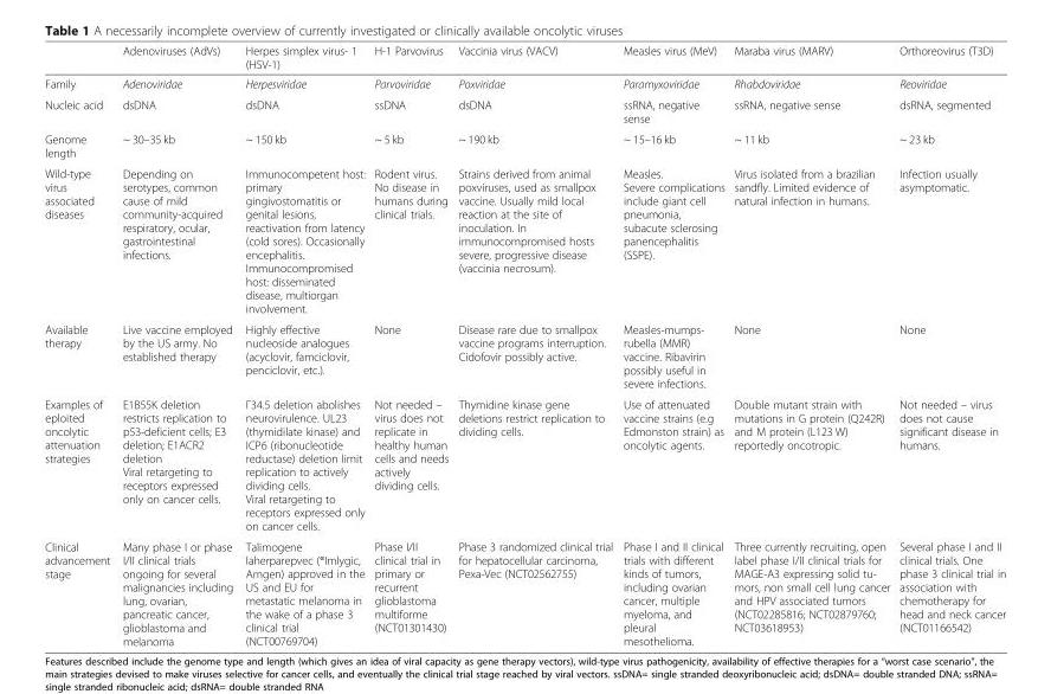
<table><thead><tr><td></td><td>Adenoviruses (AdVs)</td><td>Herpes simplex virus- 1 (HSV-1)</td><td>H-1 Parvovirus</td><td>Vaccinia virus (VACV)</td><td>Measles virus (MeV)</td><td>Maraba virus (MARV)</td><td>Orthoreovirus (T3D)</td></tr></thead><tbody><tr><td>Family</td><td>Adenoviridae</td><td>Herpesviridae</td><td>Parvoviridae</td><td>Poxviridae</td><td>Paramyxoviridae</td><td>Rhabdoviridae</td><td>Reoviridae</td></tr><tr><td>Nucleic acid</td><td>dsDNA</td><td>dsDNA</td><td>ssDNA</td><td>dsDNA</td><td>ssRNA, negative sense</td><td>ssRNA, negative sense</td><td>dsRNA, segmented</td></tr><tr><td>Genome length</td><td>~ 30–35 kb</td><td>~ 150 kb</td><td>~ 5 kb</td><td>~ 190 kb</td><td>~ 15–16 kb</td><td>~ 11 kb</td><td>~ 23 kb</td></tr><tr><td>Wild-type virus associated diseases</td><td>Depending on serotypes, common cause of mild community-acquired respiratory, ocular, gastrointestinal infections.</td><td>Immunocompetent host: primary gingivostomatitis or genital lesions, reactivation from latency (cold sores). Occasionally encephalitis. Immunocompromised host: disseminated disease, multiorgan involvement.</td><td>Rodent virus. No disease in humans during clinical trials.</td><td>Strains derived from animal poxviruses, used as smallpox vaccine. Usually mild local reaction at the site of inoculation. In immunocompromised hosts severe, progressive disease (vaccinia necrosum).</td><td>Measles. Severe complications include giant cell pneumonia, subacute sclerosing panencephalitis (SSPE).</td><td>Virus isolated from a brazilian sandfly. Limited evidence of natural infection in humans.</td><td>Infection usually asymptomatic.</td></tr><tr><td>Available therapy</td><td>Live vaccine employed by the US army. No established therapy</td><td>Highly effective nucleoside analogues (acyclovir, famciclovir, penciclovir, etc.).</td><td>None</td><td>Disease rare due to smallpox vaccine programs interruption. Cidofovir possibly active.</td><td>Measles-mumps- rubella (MMR) vaccine. Ribavirin possibly useful in severe infections.</td><td>None</td><td>None</td></tr><tr><td>Examples of eploited oncolytic attenuation strategies</td><td>E1B55K deletion restricts replication to p53-deficient cells; E3 deletion; E1ACR2 deletion Viral retargeting to receptors expressed only on cancer cells.</td><td>Γ34.5 deletion abolishes neurovirulence. UL23 (thymidilate kinase) and ICP6 (ribonucleotide reductase) deletion limit replication to actively dividing cells. Viral retargeting to receptors expressed only on cancer cells.</td><td>Not needed – virus does not replicate in healthy human cells and needs actively dividing cells.</td><td>Thymidine kinase gene deletions restrict replication to dividing cells.</td><td>Use of attenuated vaccine strains (e.g Edmonston strain) as oncolytic agents.</td><td>Double mutant strain with mutations in G protein (Q242R) and M protein (L123 W) reportedly oncotropic.</td><td>Not needed – virus does not cause significant disease in humans.</td></tr><tr><td>Clinical advancement stage</td><td>Many phase I or phase I/II clinical trials ongoing for several malignancies including lung, ovarian, pancreatic cancer, glioblastoma and melanoma</td><td>Talimogene laherparepvec (®Imlygic, Amgen) approved in the US and EU for metastatic melanoma in the wake of a phase 3 clinical trial (NCT00769704)</td><td>Phase I/II clinical trial in primary or recurrent glioblastoma multiforme (NCT01301430)</td><td>Phase 3 randomized clinical trial for hepatocellular carcinoma, Pexa-Vec (NCT02562755)</td><td>Phase I and II clinical trials with different kinds of tumors, including ovarian cancer, multiple myeloma, and pleural mesothelioma.</td><td>Three currently recruiting, open label phase I/II clinical trials for MAGE-A3 expressing solid tu- mors, non small cell lung cancer and HPV associated tumors (NCT02285816; NCT02879760; NCT03618953)</td><td>Several phase I and II clinical trials. One phase 3 clinical trial in association with chemotherapy for head and neck cancer (NCT01166542)</td></tr></tbody></table>